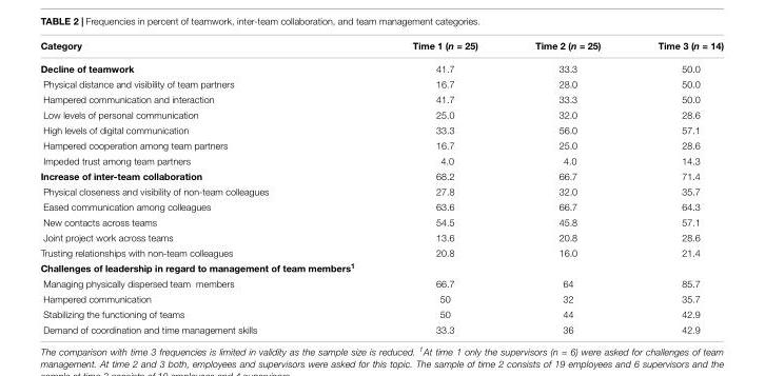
<table><thead><tr><td>Category</td><td>Time 1 (n = 25)</td><td>Time 2 (n = 25)</td><td>Time 3 (n = 14)</td></tr></thead><tbody><tr><td>Decline of teamwork</td><td>41.7</td><td>33.3</td><td>50.0</td></tr><tr><td>Physical distance and visibility of team partners</td><td>16.7</td><td>28.0</td><td>50.0</td></tr><tr><td>Hampered communication and interaction</td><td>41.7</td><td>33.3</td><td>50.0</td></tr><tr><td>Low levels of personal communication</td><td>25.0</td><td>32.0</td><td>28.6</td></tr><tr><td>High levels of digital communication</td><td>33.3</td><td>56.0</td><td>57.1</td></tr><tr><td>Hampered cooperation among team partners</td><td>16.7</td><td>25.0</td><td>28.6</td></tr><tr><td>Impeded trust among team partners</td><td>4.0</td><td>4.0</td><td>14.3</td></tr><tr><td>Increase of inter-team collaboration</td><td>68.2</td><td>66.7</td><td>71.4</td></tr><tr><td>Physical closeness and visibility of non-team colleagues</td><td>27.8</td><td>32.0</td><td>35.7</td></tr><tr><td>Eased communication among colleagues</td><td>63.6</td><td>66.7</td><td>64.3</td></tr><tr><td>New contacts across teams</td><td>54.5</td><td>45.8</td><td>57.1</td></tr><tr><td>Joint project work across teams</td><td>13.6</td><td>20.8</td><td>28.6</td></tr><tr><td>Trusting relationships with non-team colleagues</td><td>20.8</td><td>16.0</td><td>21.4</td></tr><tr><td colspan="4">Challenges of leadership in regard to management of team members<sup>1</sup></td></tr><tr><td>Managing physically dispersed team members</td><td>66.7</td><td>64</td><td>85.7</td></tr><tr><td>Hampered communication</td><td>50</td><td>32</td><td>35.7</td></tr><tr><td>Stabilizing the functioning of teams</td><td>50</td><td>44</td><td>42.9</td></tr><tr><td>Demand of coordination and time management skills</td><td>33.3</td><td>36</td><td>42.9</td></tr></tbody></table>